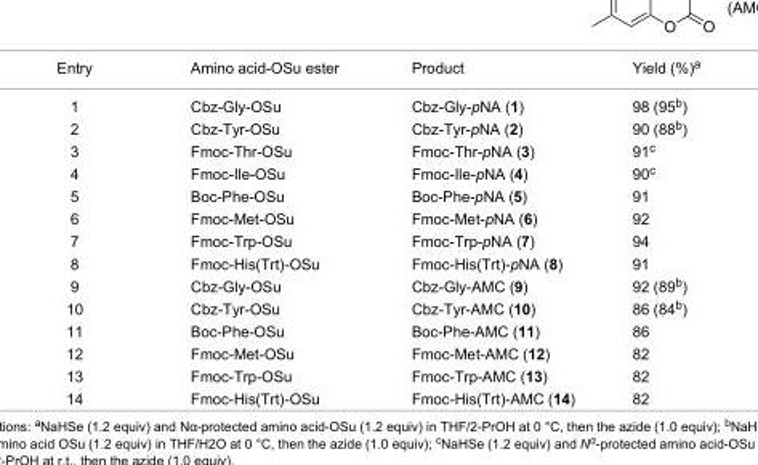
<table><tbody><tr><td>Entry</td><td>Amino acid-OSu ester</td><td>Product</td><td>Yield (%)<sup>a</sup></td></tr><tr><td>1</td><td>Cbz-Gly-OSu</td><td>Cbz-Gly-pNA (1)</td><td>98 (95<sup>b</sup>)</td></tr><tr><td>2</td><td>Cbz-Tyr-OSu</td><td>Cbz-Tyr-pNA (2)</td><td>90 (88<sup>b</sup>)</td></tr><tr><td>3</td><td>Fmoc-Thr-OSu</td><td>Fmoc-Thr-pNA (3)</td><td>91<sup>c</sup></td></tr><tr><td>4</td><td>Fmoc-Ile-OSu</td><td>Fmoc-Ile-pNA (4)</td><td>90<sup>c</sup></td></tr><tr><td>5</td><td>Boc-Phe-OSu</td><td>Boc-Phe-pNA (5)</td><td>91</td></tr><tr><td>6</td><td>Fmoc-Met-OSu</td><td>Fmoc-Met-pNA (6)</td><td>92</td></tr><tr><td>7</td><td>Fmoc-Trp-OSu</td><td>Fmoc-Trp-pNA (7)</td><td>94</td></tr><tr><td>8</td><td>Fmoc-His(Trt)-OSu</td><td>Fmoc-His(Trt)-pNA (8)</td><td>91</td></tr><tr><td>9</td><td>Cbz-Gly-OSu</td><td>Cbz-Gly-AMC (9)</td><td>92 (89<sup>b</sup>)</td></tr><tr><td>10</td><td>Cbz-Tyr-OSu</td><td>Cbz-Tyr-AMC (10)</td><td>86 (84<sup>b</sup>)</td></tr><tr><td>11</td><td>Boc-Phe-OSu</td><td>Boc-Phe-AMC (11)</td><td>86</td></tr><tr><td>12</td><td>Fmoc-Met-OSu</td><td>Fmoc-Met-AMC (12)</td><td>82</td></tr><tr><td>13</td><td>Fmoc-Trp-OSu</td><td>Fmoc-Trp-AMC (13)</td><td>82</td></tr><tr><td>14</td><td>Fmoc-His(Trt)-OSu</td><td>Fmoc-His(Trt)-AMC (14)</td><td>82</td></tr></tbody></table>